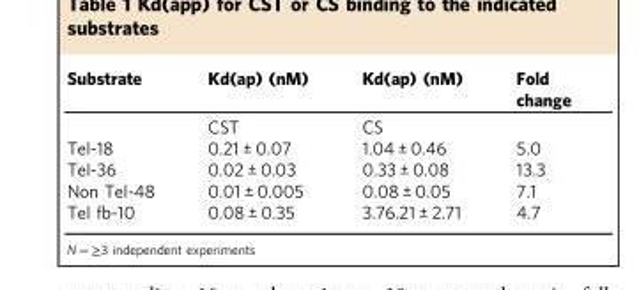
<table><thead><tr><td>Substrate</td><td>Kd(ap) (nM)</td><td>Kd(ap) (nM)</td><td>Fold change</td></tr></thead><tbody><tr><td></td><td>CST</td><td>CS</td><td></td></tr><tr><td>Tel-18</td><td>0.21 ± 0.07</td><td>1.04 ± 0.46</td><td>5.0</td></tr><tr><td>Tel-36</td><td>0.02 ± 0.03</td><td>0.33 ± 0.08</td><td>13.3</td></tr><tr><td>Non Tel-48</td><td>0.01 ± 0.005</td><td>0.08 ± 0.05</td><td>7.1</td></tr><tr><td>Tel fb-10</td><td>0.08 ± 0.35</td><td>3.76.21 ± 2.71</td><td>4.7</td></tr></tbody></table>